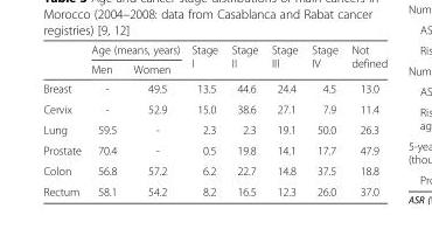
<table><thead><tr><td rowspan="2"></td><td colspan="2">Age (means, years)</td><td rowspan="2">Stage I</td><td rowspan="2">Stage II</td><td rowspan="2">Stage III</td><td rowspan="2">Stage IV</td><td rowspan="2">Not defined</td></tr><tr><td>Men</td><td>Women</td></tr></thead><tbody><tr><td>Breast</td><td>-</td><td>49.5</td><td>13.5</td><td>44.6</td><td>24.4</td><td>4.5</td><td>13.0</td></tr><tr><td>Cervix</td><td>-</td><td>52.9</td><td>15.0</td><td>38.6</td><td>27.1</td><td>7.9</td><td>11.4</td></tr><tr><td>Lung</td><td>59.5</td><td>-</td><td>2.3</td><td>2.3</td><td>19.1</td><td>50.0</td><td>26.3</td></tr><tr><td>Prostate</td><td>70.4</td><td>-</td><td>0.5</td><td>19.8</td><td>14.1</td><td>17.7</td><td>47.9</td></tr><tr><td>Colon</td><td>56.8</td><td>57.2</td><td>6.2</td><td>22.7</td><td>14.8</td><td>37.5</td><td>18.8</td></tr><tr><td>Rectum</td><td>58.1</td><td>54.2</td><td>8.2</td><td>16.5</td><td>12.3</td><td>26.0</td><td>37.0</td></tr></tbody></table>